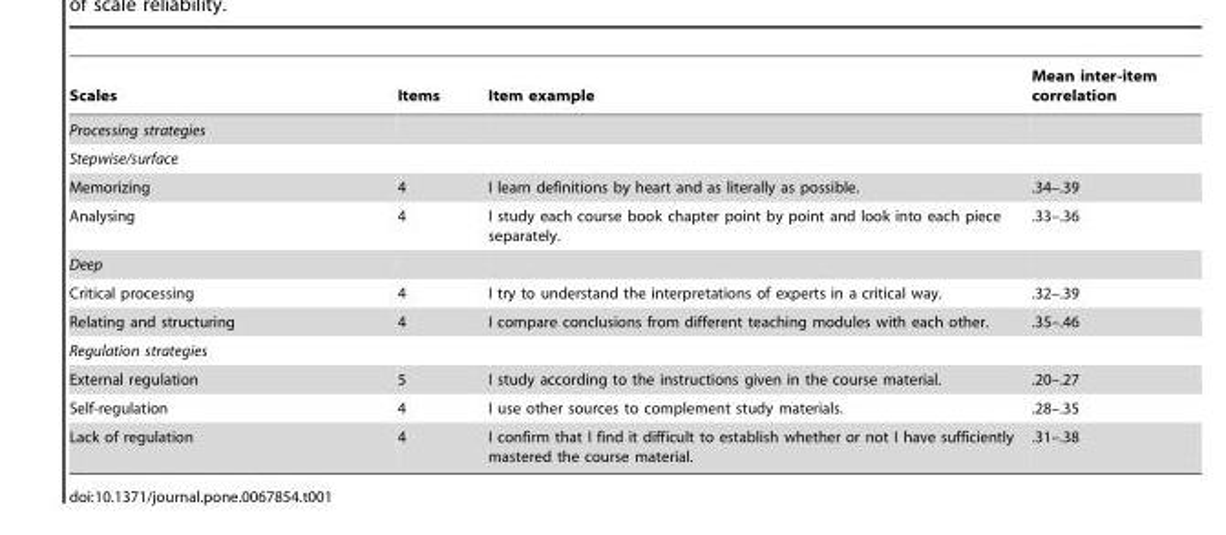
<table><thead><tr><td>Scales</td><td>Items</td><td>Item example</td><td>Mean inter-item correlation</td></tr></thead><tbody><tr><td colspan="4">Processing strategies</td></tr><tr><td colspan="4">Stepwise/surface</td></tr><tr><td>Memorizing</td><td>4</td><td>I learn definitions by heart and as literally as possible.</td><td>.34–.39</td></tr><tr><td>Analysing</td><td>4</td><td>I study each course book chapter point by point and look into each piece separately.</td><td>.33–.36</td></tr><tr><td colspan="4">Deep</td></tr><tr><td>Critical processing</td><td>4</td><td>I try to understand the interpretations of experts in a critical way.</td><td>.32–.39</td></tr><tr><td>Relating and structuring</td><td>4</td><td>I compare conclusions from different teaching modules with each other.</td><td>.35–.46</td></tr><tr><td colspan="4">Regulation strategies</td></tr><tr><td>External regulation</td><td>5</td><td>I study according to the instructions given in the course material.</td><td>.20–.27</td></tr><tr><td>Self-regulation</td><td>4</td><td>I use other sources to complement study materials.</td><td>.28–.35</td></tr><tr><td>Lack of regulation</td><td>4</td><td>I confirm that I find it difficult to establish whether or not I have sufficiently mastered the course material.</td><td>.31–.38</td></tr></tbody></table>